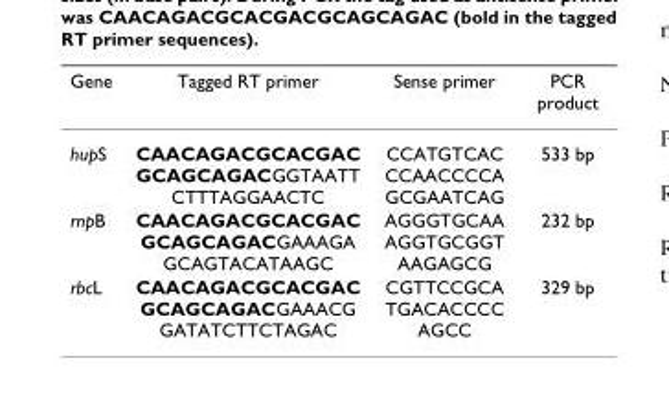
<table><thead><tr><td>Gene</td><td>Tagged RT primer</td><td>Sense primer</td><td>PCR product</td></tr></thead><tbody><tr><td>hupS</td><td>CAACAGACGCACGAC GCAGCAGACGGTAATT CTTTAGGAACTC</td><td>CCATGTCAC CCAACCCCA GCGAATCAG</td><td>533 bp</td></tr><tr><td>rnpB</td><td>CAACAGACGCACGAC GCAGCAGACGAAAGA GCAGTACATAAGC</td><td>AGGGTGCAA AGGTGCGGT AAGAGCG</td><td>232 bp</td></tr><tr><td>rbcL</td><td>CAACAGACGCACGAC GCAGCAGACGAAACG GATATCTTCTAGAC</td><td>CGTTCCGCA TGACACCCC AGCC</td><td>329 bp</td></tr></tbody></table>